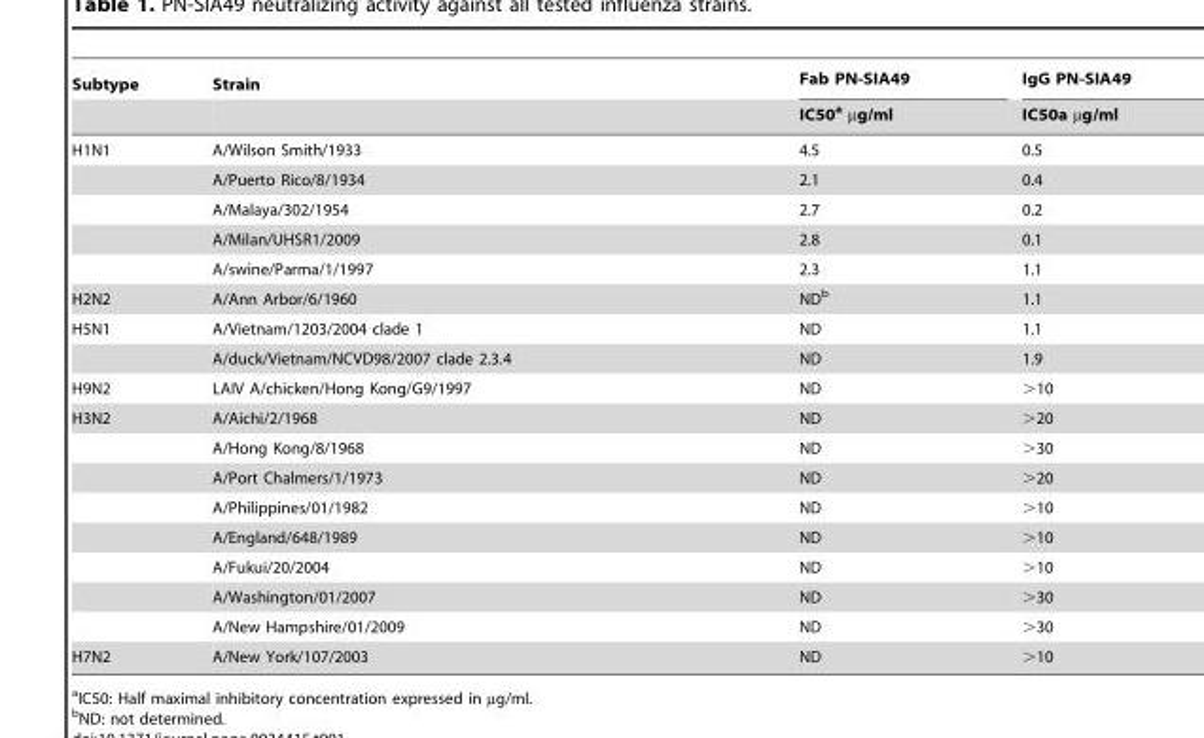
<table><thead><tr><td rowspan="2">Subtype</td><td rowspan="2">Strain</td><td rowspan="2">Fab PN-SIA49 IC50a µg/ml</td><td rowspan="2">IgG PN-SIA49 IC50a µg/ml</td></tr><tr></tr></thead><tbody><tr><td rowspan="5">H1N1</td><td>A/Wilson Smith/1933</td><td>4.5</td><td>0.5</td></tr><tr><td>A/Puerto Rico/8/1934</td><td>2.1</td><td>0.4</td></tr><tr><td>A/Malaya/302/1954</td><td>2.7</td><td>0.2</td></tr><tr><td>A/Milan/UHSR1/2009</td><td>2.8</td><td>0.1</td></tr><tr><td>A/swine/Parma/1/1997</td><td>2.3</td><td>1.1</td></tr><tr><td>H2N2</td><td>A/Ann Arbor/6/1960</td><td>ND<sup>b</sup></td><td>1.1</td></tr><tr><td rowspan="2">H5N1</td><td>A/Vietnam/1203/2004 clade 1</td><td>ND</td><td>1.1</td></tr><tr><td>A/duck/Vietnam/NCVD98/2007 clade 2.3.4</td><td>ND</td><td>1.9</td></tr><tr><td>H9N2</td><td>LAIV A/chicken/Hong Kong/G9/1997</td><td>ND</td><td>&gt;10</td></tr><tr><td rowspan="8">H3N2</td><td>A/Aichi/2/1968</td><td>ND</td><td>&gt;20</td></tr><tr><td>A/Hong Kong/8/1968</td><td>ND</td><td>&gt;30</td></tr><tr><td>A/Port Chalmers/1/1973</td><td>ND</td><td>&gt;20</td></tr><tr><td>A/Philippines/01/1982</td><td>ND</td><td>&gt;10</td></tr><tr><td>A/England/648/1989</td><td>ND</td><td>&gt;10</td></tr><tr><td>A/Fukui/20/2004</td><td>ND</td><td>&gt;10</td></tr><tr><td>A/Washington/01/2007</td><td>ND</td><td>&gt;30</td></tr><tr><td>A/New Hampshire/01/2009</td><td>ND</td><td>&gt;30</td></tr><tr><td>H7N2</td><td>A/New York/107/2003</td><td>ND</td><td>&gt;10</td></tr></tbody></table>